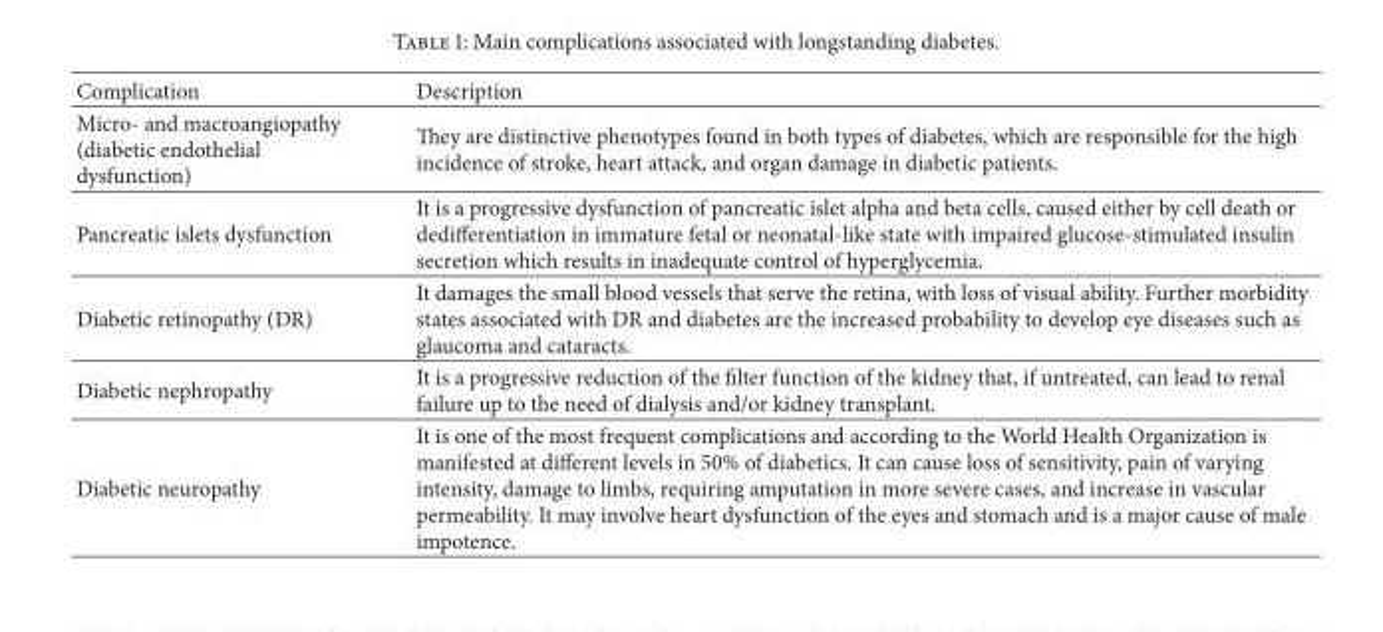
<table><thead><tr><td>Complication</td><td>Description</td></tr></thead><tbody><tr><td>Micro- and macroangiopathy (diabetic endothelial dysfunction)</td><td>They are distinctive phenotypes found in both types of diabetes, which are responsible for the high incidence of stroke, heart attack, and organ damage in diabetic patients.</td></tr><tr><td>Pancreatic islets dysfunction</td><td>It is a progressive dysfunction of pancreatic islet alpha and beta cells, caused either by cell death or dedifferentiation in immature fetal or neonatal-like state with impaired glucose-stimulated insulin secretion which results in inadequate control of hyperglycemia.</td></tr><tr><td>Diabetic retinopathy (DR)</td><td>It damages the small blood vessels that serve the retina, with loss of visual ability. Further morbidity states associated with DR and diabetes are the increased probability to develop eye diseases such as glaucoma and cataracts.</td></tr><tr><td>Diabetic nephropathy</td><td>It is a progressive reduction of the filter function of the kidney that, if untreated, can lead to renal failure up to the need of dialysis and/or kidney transplant.</td></tr><tr><td>Diabetic neuropathy</td><td>It is one of the most frequent complications and according to the World Health Organization is manifested at different levels in 50% of diabetics. It can cause loss of sensitivity, pain of varying intensity, damage to limbs, requiring amputation in more severe cases, and increase in vascular permeability. It may involve heart dysfunction of the eyes and stomach and is a major cause of male impotence.</td></tr></tbody></table>